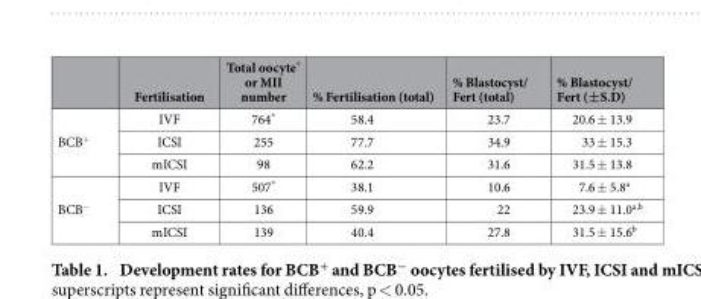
<table><thead><tr><td></td><td>Fertilisation</td><td>Total oocyte* or MII number</td><td>% Fertilisation (total)</td><td>% Blastocyst/ Fert (total)</td><td>% Blastocyst/ Fert (±S.D)</td></tr></thead><tbody><tr><td rowspan="3">BCB<sup>+</sup></td><td>IVF</td><td>764*</td><td>58.4</td><td>23.7</td><td>20.6 ± 13.9</td></tr><tr><td>ICSI</td><td>255</td><td>77.7</td><td>34.9</td><td>33 ± 15.3</td></tr><tr><td>mICSI</td><td>98</td><td>62.2</td><td>31.6</td><td>31.5 ± 13.8</td></tr><tr><td rowspan="3">BCB<sup>−</sup></td><td>IVF</td><td>507*</td><td>38.1</td><td>10.6</td><td>7.6 ± 5.8<sup>a</sup></td></tr><tr><td>ICSI</td><td>136</td><td>59.9</td><td>22</td><td>23.9 ± 11.0a,b</td></tr><tr><td>mICSI</td><td>139</td><td>40.4</td><td>27.8</td><td>31.5 ± 15.6<sup>b</sup></td></tr></tbody></table>